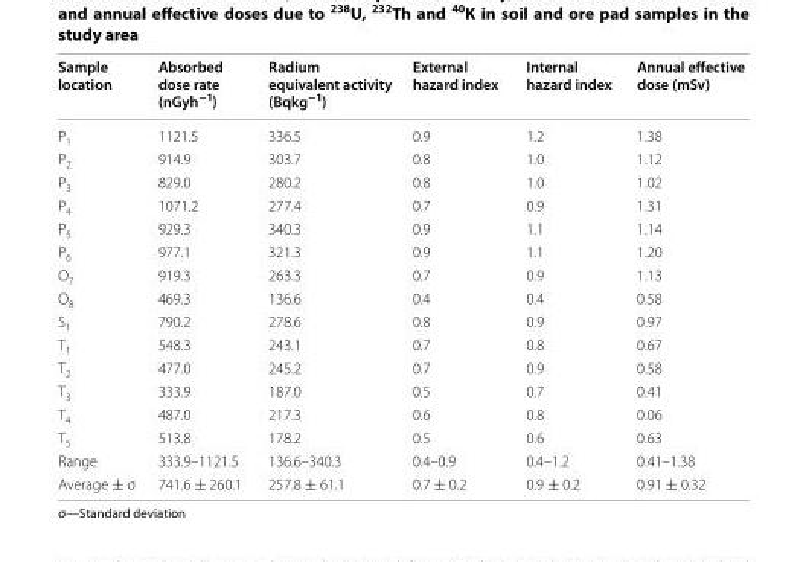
<table><thead><tr><td>Sample location</td><td>Absorbed dose rate (nGyh<sup>−1</sup>)</td><td>Radium equivalent activity (Bqkg<sup>−1</sup>)</td><td>External hazard index</td><td>Internal hazard index</td><td>Annual effective dose (mSv)</td></tr></thead><tbody><tr><td>P<sub>1</sub></td><td>1121.5</td><td>336.5</td><td>0.9</td><td>1.2</td><td>1.38</td></tr><tr><td>P<sub>2</sub></td><td>914.9</td><td>303.7</td><td>0.8</td><td>1.0</td><td>1.12</td></tr><tr><td>P<sub>3</sub></td><td>829.0</td><td>280.2</td><td>0.8</td><td>1.0</td><td>1.02</td></tr><tr><td>P<sub>4</sub></td><td>1071.2</td><td>277.4</td><td>0.7</td><td>0.9</td><td>1.31</td></tr><tr><td>P<sub>5</sub></td><td>929.3</td><td>340.3</td><td>0.9</td><td>1.1</td><td>1.14</td></tr><tr><td>P<sub>6</sub></td><td>977.1</td><td>321.3</td><td>0.9</td><td>1.1</td><td>1.20</td></tr><tr><td>O<sub>7</sub></td><td>919.3</td><td>263.3</td><td>0.7</td><td>0.9</td><td>1.13</td></tr><tr><td>O<sub>8</sub></td><td>469.3</td><td>136.6</td><td>0.4</td><td>0.4</td><td>0.58</td></tr><tr><td>S<sub>1</sub></td><td>790.2</td><td>278.6</td><td>0.8</td><td>0.9</td><td>0.97</td></tr><tr><td>T<sub>1</sub></td><td>548.3</td><td>243.1</td><td>0.7</td><td>0.8</td><td>0.67</td></tr><tr><td>T<sub>2</sub></td><td>477.0</td><td>245.2</td><td>0.7</td><td>0.9</td><td>0.58</td></tr><tr><td>T<sub>3</sub></td><td>333.9</td><td>187.0</td><td>0.5</td><td>0.7</td><td>0.41</td></tr><tr><td>T<sub>4</sub></td><td>487.0</td><td>217.3</td><td>0.6</td><td>0.8</td><td>0.06</td></tr><tr><td>T<sub>5</sub></td><td>513.8</td><td>178.2</td><td>0.5</td><td>0.6</td><td>0.63</td></tr><tr><td>Range</td><td>333.9–1121.5</td><td>136.6–340.3</td><td>0.4–0.9</td><td>0.4–1.2</td><td>0.41–1.38</td></tr><tr><td>Average ± σ</td><td>741.6 ± 260.1</td><td>257.8 ± 61.1</td><td>0.7 ± 0.2</td><td>0.9 ± 0.2</td><td>0.91 ± 0.32</td></tr></tbody></table>